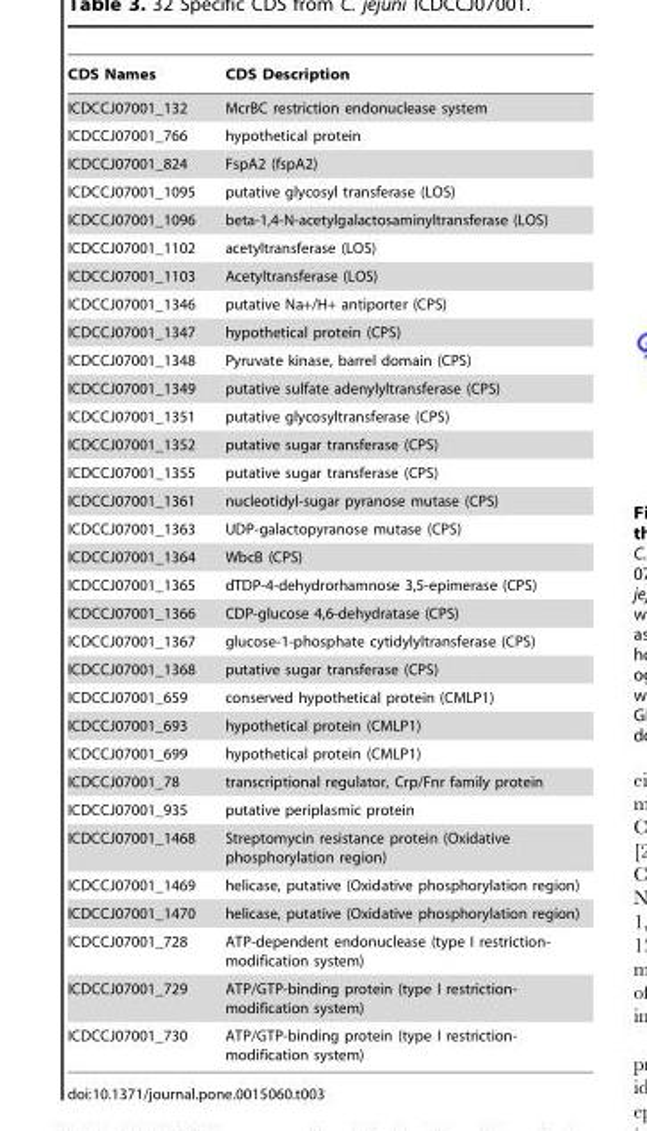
<table><thead><tr><td>CDS Names</td><td>CDS Description</td></tr></thead><tbody><tr><td>ICDCCJ07001_132</td><td>McrBC restriction endonuclease system</td></tr><tr><td>ICDCCJ07001_766</td><td>hypothetical protein</td></tr><tr><td>ICDCCJ07001_824</td><td>FspA2 (fspA2)</td></tr><tr><td>ICDCCJ07001_1095</td><td>putative glycosyl transferase (LOS)</td></tr><tr><td>ICDCCJ07001_1096</td><td>beta-1,4-N-acetylgalactosaminyltransferase (LOS)</td></tr><tr><td>ICDCCJ07001_1102</td><td>acetyltransferase (LOS)</td></tr><tr><td>ICDCCJ07001_1103</td><td>Acetyltransferase (LOS)</td></tr><tr><td>ICDCCJ07001_1346</td><td>putative Na+/H+ antiporter (CPS)</td></tr><tr><td>ICDCCJ07001_1347</td><td>hypothetical protein (CPS)</td></tr><tr><td>ICDCCJ07001_1348</td><td>Pyruvate kinase, barrel domain (CPS)</td></tr><tr><td>ICDCCJ07001_1349</td><td>putative sulfate adenylyltransferase (CPS)</td></tr><tr><td>ICDCCJ07001_1351</td><td>putative glycosyltransferase (CPS)</td></tr><tr><td>ICDCCJ07001_1352</td><td>putative sugar transferase (CPS)</td></tr><tr><td>ICDCCJ07001_1355</td><td>putative sugar transferase (CPS)</td></tr><tr><td>ICDCCJ07001_1361</td><td>nucleotidyl-sugar pyranose mutase (CPS)</td></tr><tr><td>ICDCCJ07001_1363</td><td>UDP-galactopyranose mutase (CPS)</td></tr><tr><td>ICDCCJ07001_1364</td><td>WbcB (CPS)</td></tr><tr><td>ICDCCJ07001_1365</td><td>dTDP-4-dehydrorhamnose 3,5-epimerase (CPS)</td></tr><tr><td>ICDCCJ07001_1366</td><td>CDP-glucose 4,6-dehydratase (CPS)</td></tr><tr><td>ICDCCJ07001_1367</td><td>glucose-1-phosphate cytidylyltransferase (CPS)</td></tr><tr><td>ICDCCJ07001_1368</td><td>putative sugar transferase (CPS)</td></tr><tr><td>ICDCCJ07001_659</td><td>conserved hypothetical protein (CMLP1)</td></tr><tr><td>ICDCCJ07001_693</td><td>hypothetical protein (CMLP1)</td></tr><tr><td>ICDCCJ07001_699</td><td>hypothetical protein (CMLP1)</td></tr><tr><td>ICDCCJ07001_78</td><td>transcriptional regulator, Crp/Fnr family protein</td></tr><tr><td>ICDCCJ07001_935</td><td>putative periplasmic protein</td></tr><tr><td>ICDCCJ07001_1468</td><td>Streptomycin resistance protein (Oxidative phosphorylation region)</td></tr><tr><td>ICDCCJ07001_1469</td><td>helicase, putative (Oxidative phosphorylation region)</td></tr><tr><td>ICDCCJ07001_1470</td><td>helicase, putative (Oxidative phosphorylation region)</td></tr><tr><td>ICDCCJ07001_728</td><td>ATP-dependent endonuclease (type I restriction- modification system)</td></tr><tr><td>ICDCCJ07001_729</td><td>ATP/GTP-binding protein (type I restriction- modification system)</td></tr><tr><td>ICDCCJ07001_730</td><td>ATP/GTP-binding protein (type I restriction- modification system)</td></tr></tbody></table>